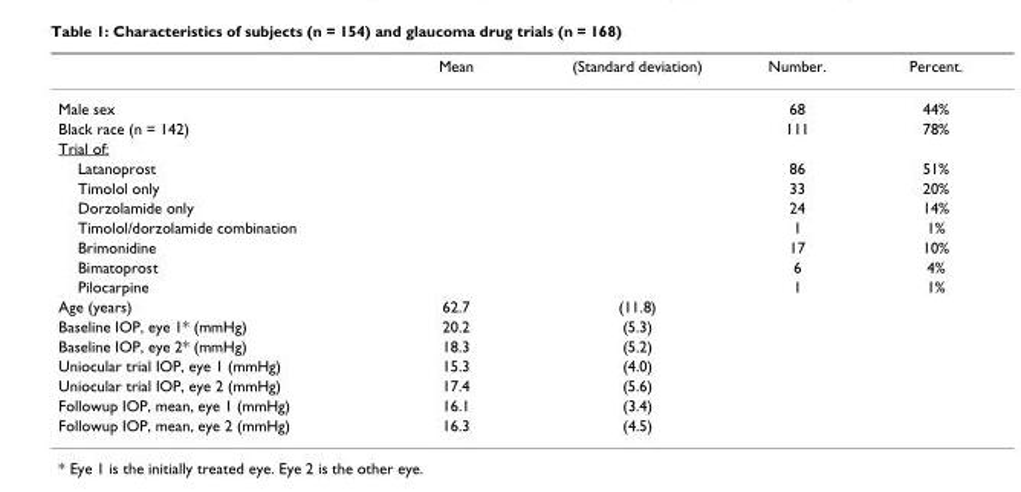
<table><thead><tr><td></td><td>Mean</td><td>(Standard deviation)</td><td>Number.</td><td>Percent.</td></tr></thead><tbody><tr><td>Male sex</td><td></td><td></td><td>68</td><td>44%</td></tr><tr><td>Black race (n = 142)</td><td></td><td></td><td>111</td><td>78%</td></tr><tr><td colspan="5">Trial of:</td></tr><tr><td>Latanoprost</td><td></td><td></td><td>86</td><td>51%</td></tr><tr><td>Timolol only</td><td></td><td></td><td>33</td><td>20%</td></tr><tr><td>Dorzolamide only</td><td></td><td></td><td>24</td><td>14%</td></tr><tr><td>Timolol/dorzolamide combination</td><td></td><td></td><td>1</td><td>1%</td></tr><tr><td>Brimonidine</td><td></td><td></td><td>17</td><td>10%</td></tr><tr><td>Bimatoprost</td><td></td><td></td><td>6</td><td>4%</td></tr><tr><td>Pilocarpine</td><td></td><td></td><td>1</td><td>1%</td></tr><tr><td>Age (years)</td><td>62.7</td><td>(11.8)</td><td></td><td></td></tr><tr><td>Baseline IOP, eye 1* (mmHg)</td><td>20.2</td><td>(5.3)</td><td></td><td></td></tr><tr><td>Baseline IOP, eye 2* (mmHg)</td><td>18.3</td><td>(5.2)</td><td></td><td></td></tr><tr><td>Uniocular trial IOP, eye 1 (mmHg)</td><td>15.3</td><td>(4.0)</td><td></td><td></td></tr><tr><td>Uniocular trial IOP, eye 2 (mmHg)</td><td>17.4</td><td>(5.6)</td><td></td><td></td></tr><tr><td>Followup IOP, mean, eye 1 (mmHg)</td><td>16.1</td><td>(3.4)</td><td></td><td></td></tr><tr><td>Followup IOP, mean, eye 2 (mmHg)</td><td>16.3</td><td>(4.5)</td><td></td><td></td></tr></tbody></table>